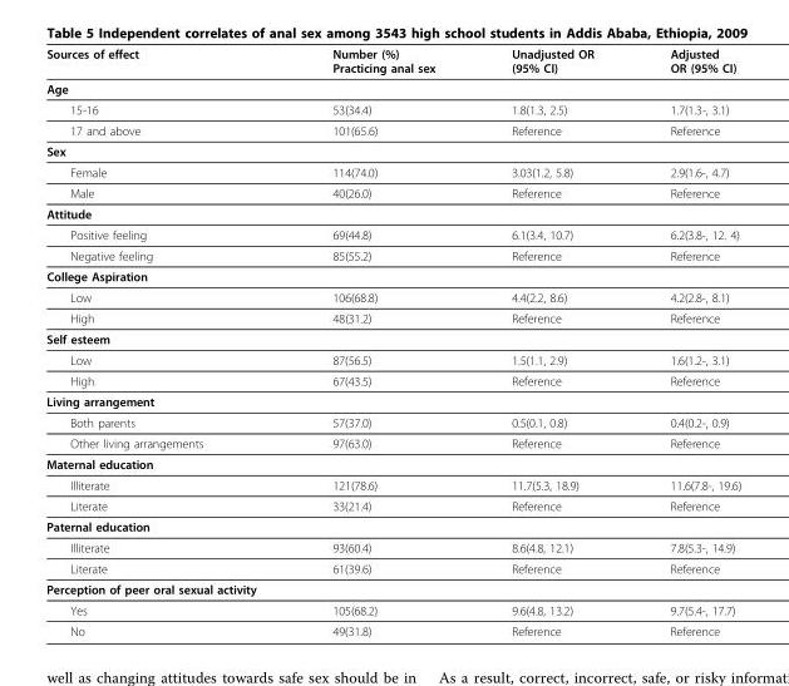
<table><thead><tr><td>Sources of effect</td><td>Number (%) Practicing anal sex</td><td>Unadjusted OR (95% CI)</td><td>Adjusted OR (95% CI)</td></tr></thead><tbody><tr><td colspan="4">Age</td></tr><tr><td>15-16</td><td>53(34.4)</td><td>1.8(1.3, 2.5)</td><td>1.7(1.3-, 3.1)</td></tr><tr><td>17 and above</td><td>101(65.6)</td><td>Reference</td><td>Reference</td></tr><tr><td colspan="4">Sex</td></tr><tr><td>Female</td><td>114(74.0)</td><td>3.03(1.2, 5.8)</td><td>2.9(1.6-, 4.7)</td></tr><tr><td>Male</td><td>40(26.0)</td><td>Reference</td><td>Reference</td></tr><tr><td colspan="4">Attitude</td></tr><tr><td>Positive feeling</td><td>69(44.8)</td><td>6.1(3.4, 10.7)</td><td>6.2(3.8-, 12. 4)</td></tr><tr><td>Negative feeling</td><td>85(55.2)</td><td>Reference</td><td>Reference</td></tr><tr><td colspan="4">College Aspiration</td></tr><tr><td>Low</td><td>106(68.8)</td><td>4.4(2.2, 8.6)</td><td>4.2(2.8-, 8.1)</td></tr><tr><td>High</td><td>48(31.2)</td><td>Reference</td><td>Reference</td></tr><tr><td colspan="4">Self esteem</td></tr><tr><td>Low</td><td>87(56.5)</td><td>1.5(1.1, 2.9)</td><td>1.6(1.2-, 3.1)</td></tr><tr><td>High</td><td>67(43.5)</td><td>Reference</td><td>Reference</td></tr><tr><td colspan="4">Living arrangement</td></tr><tr><td>Both parents</td><td>57(37.0)</td><td>0.5(0.1, 0.8)</td><td>0.4(0.2-, 0.9)</td></tr><tr><td>Other living arrangements</td><td>97(63.0)</td><td>Reference</td><td>Reference</td></tr><tr><td colspan="4">Maternal education</td></tr><tr><td>Illiterate</td><td>121(78.6)</td><td>11.7(5.3, 18.9)</td><td>11.6(7.8-, 19.6)</td></tr><tr><td>Literate</td><td>33(21.4)</td><td>Reference</td><td>Reference</td></tr><tr><td colspan="4">Paternal education</td></tr><tr><td>Illiterate</td><td>93(60.4)</td><td>8.6(4.8, 12.1)</td><td>7.8(5.3-, 14.9)</td></tr><tr><td>Literate</td><td>61(39.6)</td><td>Reference</td><td>Reference</td></tr><tr><td colspan="4">Perception of peer oral sexual activity</td></tr><tr><td>Yes</td><td>105(68.2)</td><td>9.6(4.8, 13.2)</td><td>9.7(5.4-, 17.7)</td></tr><tr><td>No</td><td>49(31.8)</td><td>Reference</td><td>Reference</td></tr></tbody></table>